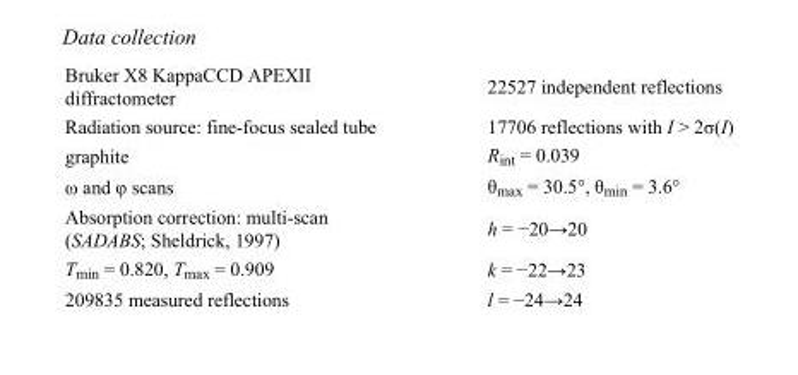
<table><tbody><tr><td>Bruker X8 KappaCCD APEXII diffractometer</td><td>22527 independent reflections</td></tr><tr><td>Radiation source: fine-focus sealed tube</td><td>17706 reflections with I &gt; 2σ(I)</td></tr><tr><td>graphite</td><td>R<sub>int</sub> = 0.039</td></tr><tr><td>ω and φ scans</td><td>θ<sub>max</sub> = 30.5°, θ<sub>min</sub> = 3.6°</td></tr><tr><td>Absorption correction: multi-scan (SADABS; Sheldrick, 1997)</td><td>h = −20→20</td></tr><tr><td>T<sub>min</sub> = 0.820, T<sub>max</sub> = 0.909</td><td>k = −22→23</td></tr><tr><td>209835 measured reflections</td><td>l = −24→24</td></tr></tbody></table>